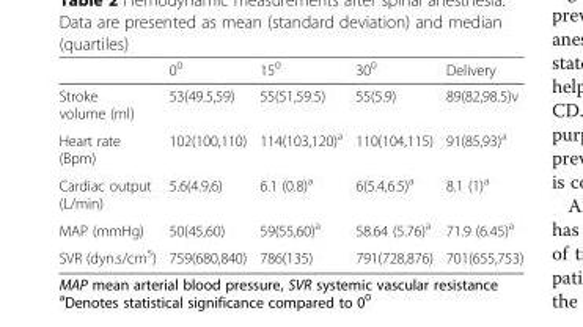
<table><thead><tr><td></td><td>0<sup>0</sup></td><td>15<sup>0</sup></td><td>30<sup>0</sup></td><td>Delivery</td></tr></thead><tbody><tr><td>Stroke volume (ml)</td><td>53(49.5,59)</td><td>55(51,59.5)</td><td>55(5.9)</td><td>89(82,98.5)v</td></tr><tr><td>Heart rate (Bpm)</td><td>102(100,110)</td><td>114(103,120)<sup>a</sup></td><td>110(104,115)</td><td>91(85,93)<sup>a</sup></td></tr><tr><td>Cardiac output (L/min)</td><td>5.6(4.9,6)</td><td>6.1 (0.8)<sup>a</sup></td><td>6(5.4,6.5)<sup>a</sup></td><td>8.1 (1)<sup>a</sup></td></tr><tr><td>MAP (mmHg)</td><td>50(45,60)</td><td>59(55,60)<sup>a</sup></td><td>58.64 (5.76)<sup>a</sup></td><td>71.9 (6.45)<sup>a</sup></td></tr><tr><td>SVR (dyn.s/cm<sup>5</sup>)</td><td>759(680,840)</td><td>786(135)</td><td>791(728,876)</td><td>701(655,753)</td></tr></tbody></table>